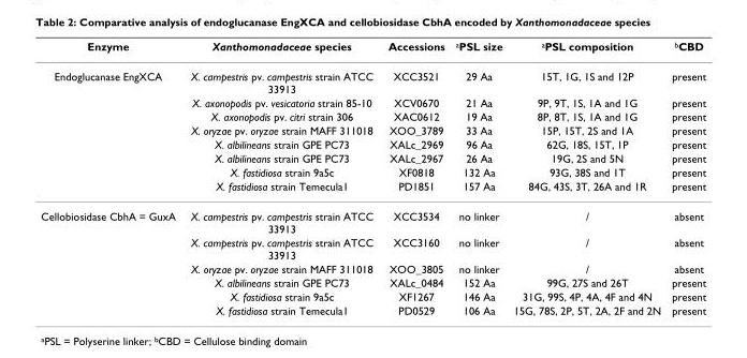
<table><thead><tr><td>Enzyme</td><td>Xanthomonadaceae species</td><td>Accessions</td><td><sup>a</sup>PSL size</td><td><sup>a</sup>PSL composition</td><td><sup>b</sup>CBD</td></tr></thead><tbody><tr><td rowspan="8">Endoglucanase EngXCA</td><td>X. campestris pv. campestris strain ATCC 33913</td><td>XCC3521</td><td>29 Aa</td><td>15T, 1G, 1S and 12P</td><td>present</td></tr><tr><td>X. axonopodis pv. vesicatoria strain 85-10</td><td>XCV0670</td><td>21 Aa</td><td>9P, 9T, 1S, 1A and 1G</td><td>present</td></tr><tr><td>X. axonopodis pv. citri strain 306</td><td>XAC0612</td><td>19 Aa</td><td>8P, 8T, 1S, 1A and 1G</td><td>present</td></tr><tr><td>X. oryzae pv. oryzae strain MAFF 311018</td><td>XOO_3789</td><td>33 Aa</td><td>15P, 15T, 2S and 1A</td><td>present</td></tr><tr><td>X. albilineans strain GPE PC73</td><td>XALc_2969</td><td>96 Aa</td><td>62G, 18S, 15T, 1P</td><td>present</td></tr><tr><td>X. albilineans strain GPE PC73</td><td>XALc_2967</td><td>26 Aa</td><td>19G, 2S and 5N</td><td>present</td></tr><tr><td>X. fastidiosa strain 9a5c</td><td>XF0818</td><td>132 Aa</td><td>93G, 38S and 1T</td><td>present</td></tr><tr><td>X. fastidiosa strain Temecula1</td><td>PD1851</td><td>157 Aa</td><td>84G, 43S, 3T, 26A and 1R</td><td>present</td></tr><tr><td rowspan="6">Cellobiosidase CbhA = GuxA</td><td>X. campestris pv. campestris strain ATCC 33913</td><td>XCC3534</td><td>no linker</td><td>/</td><td>absent</td></tr><tr><td>X. campestris pv. campestris strain ATCC 33913</td><td>XCC3160</td><td>no linker</td><td>/</td><td>absent</td></tr><tr><td>X. oryzae pv. oryzae strain MAFF 311018</td><td>XOO_3805</td><td>no linker</td><td>/</td><td>absent</td></tr><tr><td>X. albilineans strain GPE PC73</td><td>XALc_0484</td><td>152 Aa</td><td>99G, 27S and 26T</td><td>present</td></tr><tr><td>X. fastidiosa strain 9a5c</td><td>XF1267</td><td>146 Aa</td><td>31G, 99S, 4P, 4A, 4F and 4N</td><td>present</td></tr><tr><td>X. fastidiosa strain Temecula1</td><td>PD0529</td><td>106 Aa</td><td>15G, 78S, 2P, 5T, 2A, 2F and 2N</td><td>present</td></tr></tbody></table>